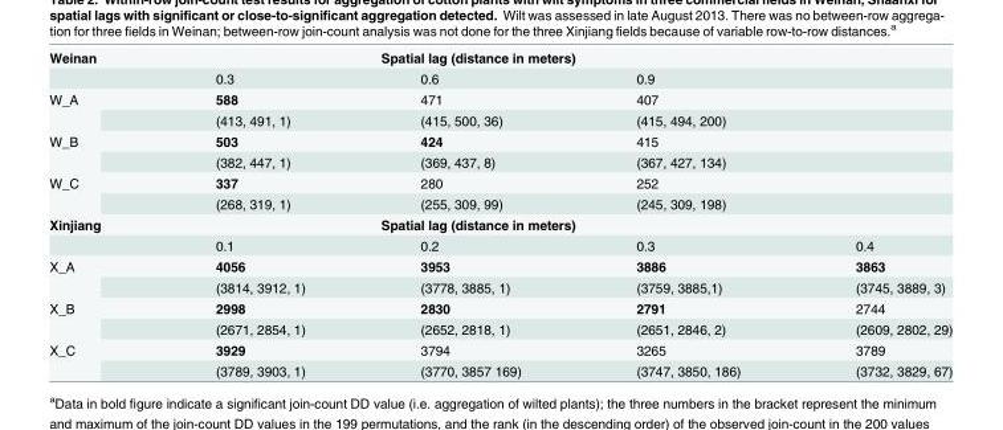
<table><tbody><tr><td rowspan="2">Weinan</td><td colspan="3">Spatial lag (distance in meters)</td><td></td></tr><tr><td>0.3</td><td>0.6</td><td>0.9</td><td></td></tr><tr><td rowspan="2">W_A</td><td>588</td><td>471</td><td>407</td><td></td></tr><tr><td>(413, 491, 1)</td><td>(415, 500, 36)</td><td>(415, 494, 200)</td><td></td></tr><tr><td rowspan="2">W_B</td><td>503</td><td>424</td><td>415</td><td></td></tr><tr><td>(382, 447, 1)</td><td>(369, 437, 8)</td><td>(367, 427, 134)</td><td></td></tr><tr><td rowspan="2">W_C</td><td>337</td><td>280</td><td>252</td><td></td></tr><tr><td>(268, 319, 1)</td><td>(255, 309, 99)</td><td>(245, 309, 198)</td><td></td></tr><tr><td rowspan="2">Xinjiang</td><td colspan="3">Spatial lag (distance in meters)</td><td></td></tr><tr><td>0.1</td><td>0.2</td><td>0.3</td><td>0.4</td></tr><tr><td rowspan="2">X_A</td><td>4056</td><td>3953</td><td>3886</td><td>3863</td></tr><tr><td>(3814, 3912, 1)</td><td>(3778, 3885, 1)</td><td>(3759, 3885,1)</td><td>(3745, 3889, 3)</td></tr><tr><td rowspan="2">X_B</td><td>2998</td><td>2830</td><td>2791</td><td>2744</td></tr><tr><td>(2671, 2854, 1)</td><td>(2652, 2818, 1)</td><td>(2651, 2846, 2)</td><td>(2609, 2802, 29)</td></tr><tr><td rowspan="2">X_C</td><td>3929</td><td>3794</td><td>3265</td><td>3789</td></tr><tr><td>(3789, 3903, 1)</td><td>(3770, 3857 169)</td><td>(3747, 3850, 186)</td><td>(3732, 3829, 67)</td></tr></tbody></table>